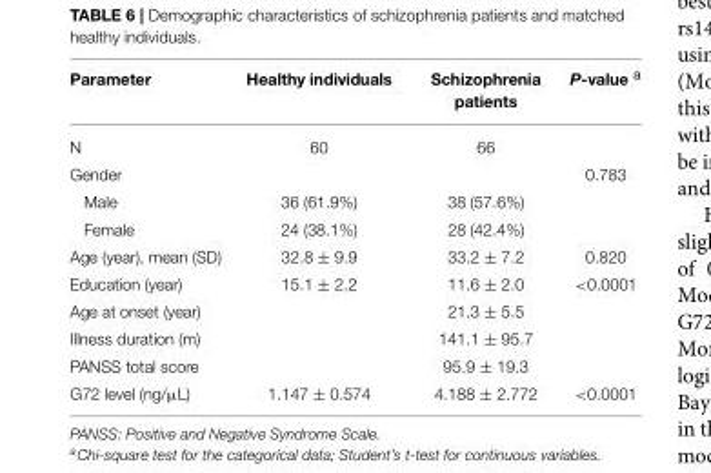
<table><thead><tr><td>Parameter</td><td>Healthy individuals</td><td>Schizophrenia patients</td><td>P-value <sup>a</sup></td></tr></thead><tbody><tr><td>N</td><td>60</td><td>66</td><td></td></tr><tr><td>Gender</td><td></td><td></td><td>0.783</td></tr><tr><td>Male</td><td>36 (61.9%)</td><td>38 (57.6%)</td><td></td></tr><tr><td>Female</td><td>24 (38.1%)</td><td>28 (42.4%)</td><td></td></tr><tr><td>Age (year), mean (SD)</td><td>32.8 ± 9.9</td><td>33.2 ± 7.2</td><td>0.820</td></tr><tr><td>Education (year)</td><td>15.1 ± 2.2</td><td>11.6 ± 2.0</td><td>&lt;0.0001</td></tr><tr><td>Age at onset (year)</td><td></td><td>21.3 ± 5.5</td><td></td></tr><tr><td>Illness duration (m)</td><td></td><td>141.1 ± 95.7</td><td></td></tr><tr><td>PANSS total score</td><td></td><td>95.9 ± 19.3</td><td></td></tr><tr><td>G72 level (ng/µL)</td><td>1.147 ± 0.574</td><td>4.188 ± 2.772</td><td>&lt;0.0001</td></tr></tbody></table>